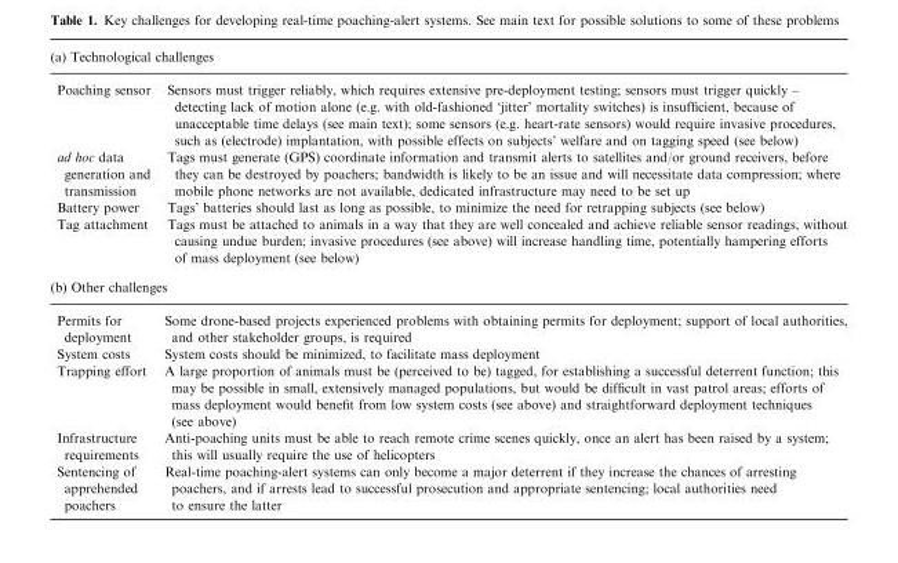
<table><thead><tr><td colspan="2">(a) Technological challenges</td></tr><tr><td>Poaching sensor</td><td>Sensors must trigger reliably, which requires extensive pre-deployment testing; sensors must trigger quickly – detecting lack of motion alone (e.g. with old-fashioned ‘jitter’ mortality switches) is insufficient, because of unacceptable time delays (see main text); some sensors (e.g. heart-rate sensors) would require invasive procedures, such as (electrode) implantation, with possible effects on subjects’ welfare and on tagging speed (see below)</td></tr></thead><tbody><tr><td>ad hoc data generation and transmission</td><td>Tags must generate (GPS) coordinate information and transmit alerts to satellites and/or ground receivers, before they can be destroyed by poachers; bandwidth is likely to be an issue and will necessitate data compression; where mobile phone networks are not available, dedicated infrastructure may need to be set up</td></tr><tr><td>Battery power</td><td>Tags’ batteries should last as long as possible, to minimize the need for retrapping subjects (see below)</td></tr><tr><td>Tag attachment</td><td>Tags must be attached to animals in a way that they are well concealed and achieve reliable sensor readings, without causing undue burden; invasive procedures (see above) will increase handling time, potentially hampering efforts of mass deployment (see below)</td></tr><tr><td colspan="2">(b) Other challenges</td></tr><tr><td>Permits for deployment</td><td>Some drone-based projects experienced problems with obtaining permits for deployment; support of local authorities, and other stakeholder groups, is required</td></tr><tr><td>System costs</td><td>System costs should be minimized, to facilitate mass deployment</td></tr><tr><td>Trapping effort</td><td>A large proportion of animals must be (perceived to be) tagged, for establishing a successful deterrent function; this may be possible in small, extensively managed populations, but would be difficult in vast patrol areas; efforts of mass deployment would benefit from low system costs (see above) and straightforward deployment techniques (see above)</td></tr><tr><td>Infrastructure requirements</td><td>Anti-poaching units must be able to reach remote crime scenes quickly, once an alert has been raised by a system; this will usually require the use of helicopters</td></tr><tr><td>Sentencing of apprehended poachers</td><td>Real-time poaching-alert systems can only become a major deterrent if they increase the chances of arresting poachers, and if arrests lead to successful prosecution and appropriate sentencing; local authorities need to ensure the latter</td></tr></tbody></table>